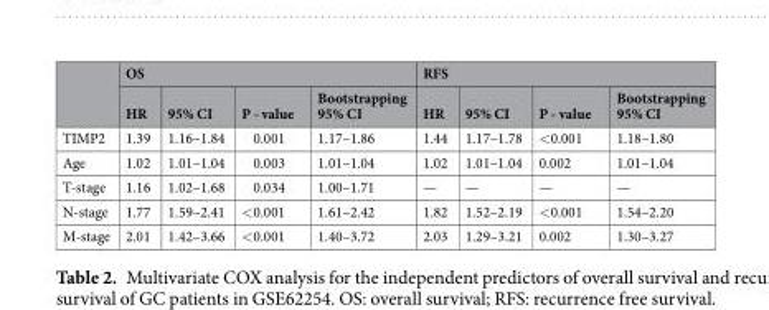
<table><thead><tr><td rowspan="2"></td><td colspan="4">OS</td><td colspan="4">RFS</td></tr><tr><td>HR</td><td>95% CI</td><td>P - value</td><td>Bootstrapping 95% CI</td><td>HR</td><td>95% CI</td><td>P - value</td><td>Bootstrapping 95% CI</td></tr></thead><tbody><tr><td>TIMP2</td><td>1.39</td><td>1.16–1.84</td><td>0.001</td><td>1.17–1.86</td><td>1.44</td><td>1.17–1.78</td><td>&lt;0.001</td><td>1.18–1.80</td></tr><tr><td>Age</td><td>1.02</td><td>1.01–1.04</td><td>0.003</td><td>1.01–1.04</td><td>1.02</td><td>1.01–1.04</td><td>0.002</td><td>1.01–1.04</td></tr><tr><td>T-stage</td><td>1.16</td><td>1.02–1.68</td><td>0.034</td><td>1.00–1.71</td><td>—</td><td>—</td><td>—</td><td>—</td></tr><tr><td>N-stage</td><td>1.77</td><td>1.59–2.41</td><td>&lt;0.001</td><td>1.61–2.42</td><td>1.82</td><td>1.52–2.19</td><td>&lt;0.001</td><td>1.54–2.20</td></tr><tr><td>M-stage</td><td>2.01</td><td>1.42–3.66</td><td>&lt;0.001</td><td>1.40–3.72</td><td>2.03</td><td>1.29–3.21</td><td>0.002</td><td>1.30–3.27</td></tr></tbody></table>